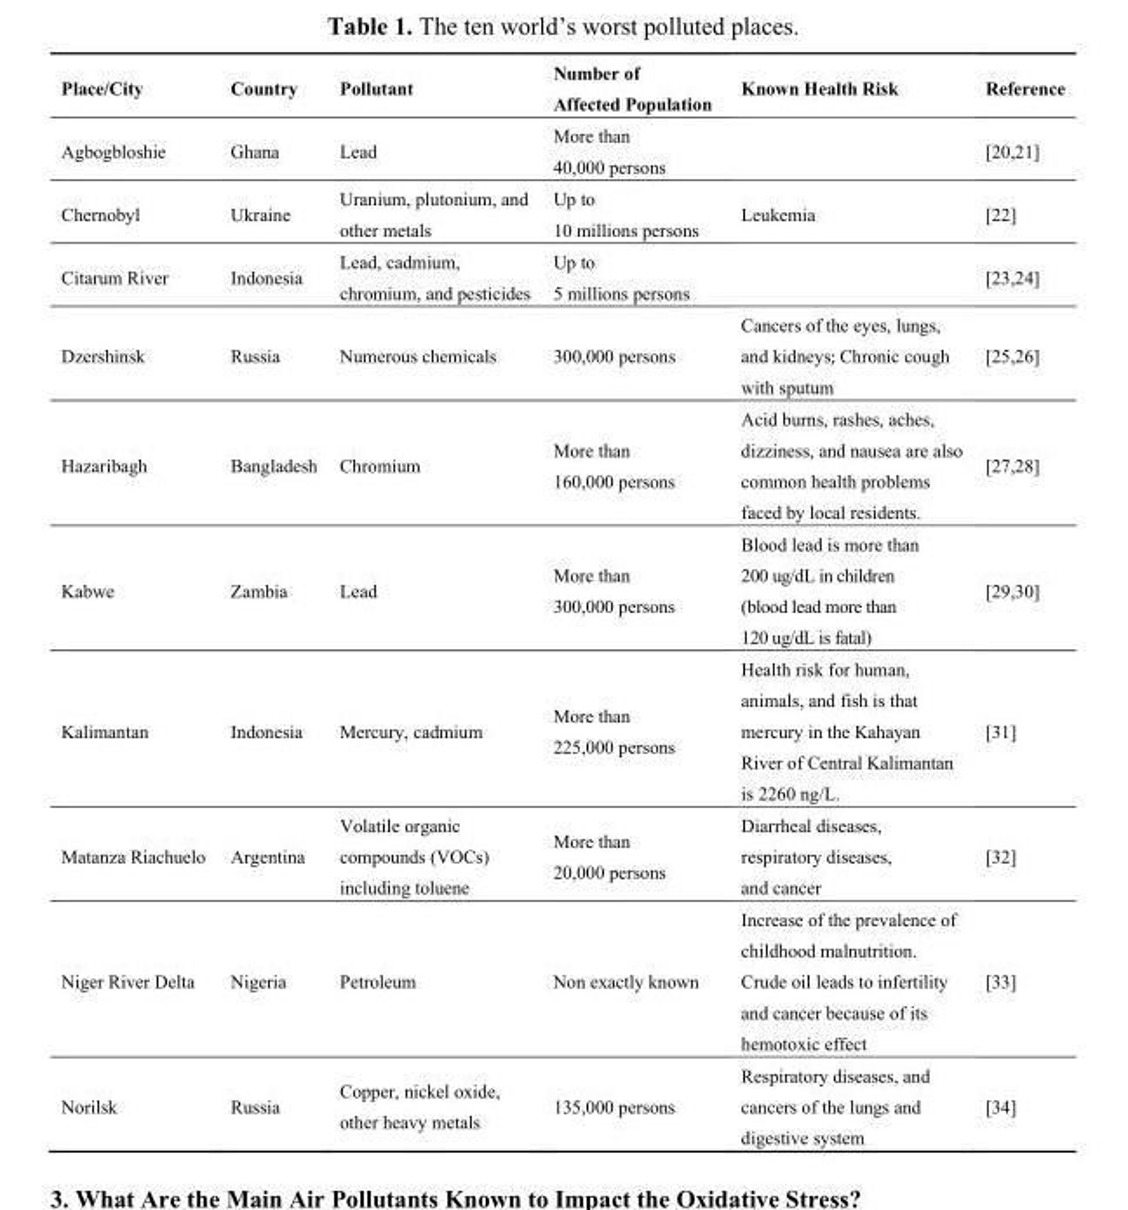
<table><thead><tr><td>Place/City</td><td>Country</td><td>Pollutant</td><td>Number of Affected Population</td><td>Known Health Risk</td><td>Reference</td></tr></thead><tbody><tr><td>Agbogbloshie</td><td>Ghana</td><td>Lead</td><td>More than 40,000 persons</td><td></td><td>[20,21]</td></tr><tr><td>Chernobyl</td><td>Ukraine</td><td>Uranium, plutonium, and other metals</td><td>Up to 10 millions persons</td><td>Leukemia</td><td>[22]</td></tr><tr><td>Citarum River</td><td>Indonesia</td><td>Lead, cadmium, chromium, and pesticides</td><td>Up to 5 millions persons</td><td></td><td>[23,24]</td></tr><tr><td>Dzershinsk</td><td>Russia</td><td>Numerous chemicals</td><td>300,000 persons</td><td>Cancers of the eyes, lungs, and kidneys; Chronic cough with sputum</td><td>[25,26]</td></tr><tr><td>Hazaribagh</td><td>Bangladesh</td><td>Chromium</td><td>More than 160,000 persons</td><td>Acid burns, rashes, aches, dizziness, and nausea are also common health problems faced by local residents.</td><td>[27,28]</td></tr><tr><td>Kabwe</td><td>Zambia</td><td>Lead</td><td>More than 300,000 persons</td><td>Blood lead is more than 200 ug/dL in children (blood lead more than 120 ug/dL is fatal)</td><td>[29,30]</td></tr><tr><td>Kalimantan</td><td>Indonesia</td><td>Mercury, cadmium</td><td>More than 225,000 persons</td><td>Health risk for human, animals, and fish is that mercury in the Kahayan River of Central Kalimantan is 2260 ng/L.</td><td>[31]</td></tr><tr><td>Matanza Riachuelo</td><td>Argentina</td><td>Volatile organic compounds (VOCs) including toluene</td><td>More than 20,000 persons</td><td>Diarrheal diseases, respiratory diseases, and cancer</td><td>[32]</td></tr><tr><td>Niger River Delta</td><td>Nigeria</td><td>Petroleum</td><td>Non exactly known</td><td>Increase of the prevalence of childhood malnutrition. Crude oil leads to infertility and cancer because of its hemotoxic effect</td><td>[33]</td></tr><tr><td>Norilsk</td><td>Russia</td><td>Copper, nickel oxide, other heavy metals</td><td>135,000 persons</td><td>Respiratory diseases, and cancers of the lungs and digestive system</td><td>[34]</td></tr></tbody></table>